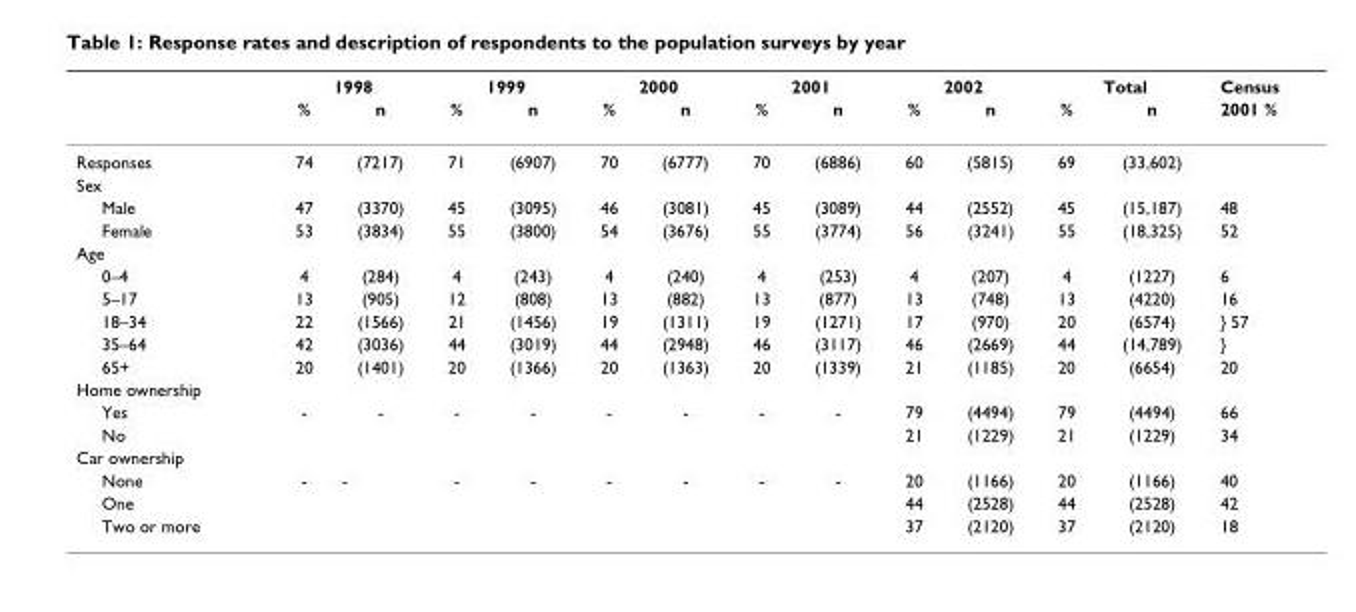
<table><thead><tr><td rowspan="2"></td><td colspan="2">1998</td><td colspan="2">1999</td><td colspan="2">2000</td><td colspan="2">2001</td><td colspan="2">2002</td><td colspan="2">Total</td><td rowspan="2">Census 2001 %</td></tr><tr><td>%</td><td>n</td><td>%</td><td>n</td><td>%</td><td>n</td><td>%</td><td>n</td><td>%</td><td>n</td><td>%</td><td>n</td></tr></thead><tbody><tr><td>Responses</td><td>74</td><td>(7217)</td><td>71</td><td>(6907)</td><td>70</td><td>(6777)</td><td>70</td><td>(6886)</td><td>60</td><td>(5815)</td><td>69</td><td>(33,602)</td><td></td></tr><tr><td colspan="14">Sex</td></tr><tr><td>Male</td><td>47</td><td>(3370)</td><td>45</td><td>(3095)</td><td>46</td><td>(3081)</td><td>45</td><td>(3089)</td><td>44</td><td>(2552)</td><td>45</td><td>(15,187)</td><td>48</td></tr><tr><td>Female</td><td>53</td><td>(3834)</td><td>55</td><td>(3800)</td><td>54</td><td>(3676)</td><td>55</td><td>(3774)</td><td>56</td><td>(3241)</td><td>55</td><td>(18,325)</td><td>52</td></tr><tr><td colspan="14">Age</td></tr><tr><td>0–4</td><td>4</td><td>(284)</td><td>4</td><td>(243)</td><td>4</td><td>(240)</td><td>4</td><td>(253)</td><td>4</td><td>(207)</td><td>4</td><td>(1227)</td><td>6</td></tr><tr><td>5–17</td><td>13</td><td>(905)</td><td>12</td><td>(808)</td><td>13</td><td>(882)</td><td>13</td><td>(877)</td><td>13</td><td>(748)</td><td>13</td><td>(4220)</td><td>16</td></tr><tr><td>18–34</td><td>22</td><td>(1566)</td><td>21</td><td>(1456)</td><td>19</td><td>(1311)</td><td>19</td><td>(1271)</td><td>17</td><td>(970)</td><td>20</td><td>(6574)</td><td>} 57</td></tr><tr><td>35–64</td><td>42</td><td>(3036)</td><td>44</td><td>(3019)</td><td>44</td><td>(2948)</td><td>46</td><td>(3117)</td><td>46</td><td>(2669)</td><td>44</td><td>(14,789)</td><td>}</td></tr><tr><td>65+</td><td>20</td><td>(1401)</td><td>20</td><td>(1366)</td><td>20</td><td>(1363)</td><td>20</td><td>(1339)</td><td>21</td><td>(1185)</td><td>20</td><td>(6654)</td><td>20</td></tr><tr><td colspan="14">Home ownership</td></tr><tr><td>Yes</td><td>-</td><td>-</td><td>-</td><td>-</td><td>-</td><td>-</td><td>-</td><td>-</td><td>79</td><td>(4494)</td><td>79</td><td>(4494)</td><td>66</td></tr><tr><td>No</td><td></td><td></td><td></td><td></td><td></td><td></td><td></td><td></td><td>21</td><td>(1229)</td><td>21</td><td>(1229)</td><td>34</td></tr><tr><td colspan="14">Car ownership</td></tr><tr><td>None</td><td>-</td><td>-</td><td>-</td><td>-</td><td>-</td><td>-</td><td>-</td><td>-</td><td>20</td><td>(1166)</td><td>20</td><td>(1166)</td><td>40</td></tr><tr><td>One</td><td></td><td></td><td></td><td></td><td></td><td></td><td></td><td></td><td>44</td><td>(2528)</td><td>44</td><td>(2528)</td><td>42</td></tr><tr><td>Two or more</td><td></td><td></td><td></td><td></td><td></td><td></td><td></td><td></td><td>37</td><td>(2120)</td><td>37</td><td>(2120)</td><td>18</td></tr></tbody></table>